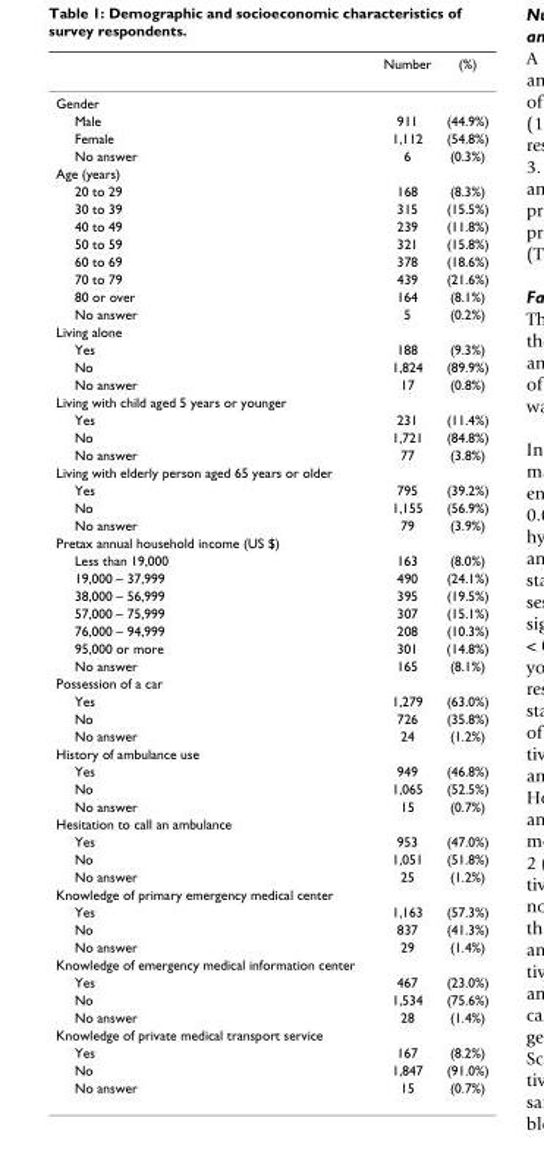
<table><thead><tr><td></td><td>Number</td><td>(%)</td></tr></thead><tbody><tr><td colspan="3">Gender</td></tr><tr><td>Male</td><td>911</td><td>(44.9%)</td></tr><tr><td>Female</td><td>1,112</td><td>(54.8%)</td></tr><tr><td>No answer</td><td>6</td><td>(0.3%)</td></tr><tr><td colspan="3">Age (years)</td></tr><tr><td>20 to 29</td><td>168</td><td>(8.3%)</td></tr><tr><td>30 to 39</td><td>315</td><td>(15.5%)</td></tr><tr><td>40 to 49</td><td>239</td><td>(11.8%)</td></tr><tr><td>50 to 59</td><td>321</td><td>(15.8%)</td></tr><tr><td>60 to 69</td><td>378</td><td>(18.6%)</td></tr><tr><td>70 to 79</td><td>439</td><td>(21.6%)</td></tr><tr><td>80 or over</td><td>164</td><td>(8.1%)</td></tr><tr><td>No answer</td><td>5</td><td>(0.2%)</td></tr><tr><td colspan="3">Living alone</td></tr><tr><td>Yes</td><td>188</td><td>(9.3%)</td></tr><tr><td>No</td><td>1,824</td><td>(89.9%)</td></tr><tr><td>No answer</td><td>17</td><td>(0.8%)</td></tr><tr><td colspan="3">Living with child aged 5 years or younger</td></tr><tr><td>Yes</td><td>231</td><td>(11.4%)</td></tr><tr><td>No</td><td>1,721</td><td>(84.8%)</td></tr><tr><td>No answer</td><td>77</td><td>(3.8%)</td></tr><tr><td colspan="3">Living with elderly person aged 65 years or older</td></tr><tr><td>Yes</td><td>795</td><td>(39.2%)</td></tr><tr><td>No</td><td>1,155</td><td>(56.9%)</td></tr><tr><td>No answer</td><td>79</td><td>(3.9%)</td></tr><tr><td colspan="3">Pretax annual household income (US $)</td></tr><tr><td>Less than 19,000</td><td>163</td><td>(8.0%)</td></tr><tr><td>19,000 – 37,999</td><td>490</td><td>(24.1%)</td></tr><tr><td>38,000 – 56,999</td><td>395</td><td>(19.5%)</td></tr><tr><td>57,000 – 75,999</td><td>307</td><td>(15.1%)</td></tr><tr><td>76,000 – 94,999</td><td>208</td><td>(10.3%)</td></tr><tr><td>95,000 or more</td><td>301</td><td>(14.8%)</td></tr><tr><td>No answer</td><td>165</td><td>(8.1%)</td></tr><tr><td colspan="3">Possession of a car</td></tr><tr><td>Yes</td><td>1,279</td><td>(63.0%)</td></tr><tr><td>No</td><td>726</td><td>(35.8%)</td></tr><tr><td>No answer</td><td>24</td><td>(1.2%)</td></tr><tr><td colspan="3">History of ambulance use</td></tr><tr><td>Yes</td><td>949</td><td>(46.8%)</td></tr><tr><td>No</td><td>1,065</td><td>(52.5%)</td></tr><tr><td>No answer</td><td>15</td><td>(0.7%)</td></tr><tr><td colspan="3">Hesitation to call an ambulance</td></tr><tr><td>Yes</td><td>953</td><td>(47.0%)</td></tr><tr><td>No</td><td>1,051</td><td>(51.8%)</td></tr><tr><td>No answer</td><td>25</td><td>(1.2%)</td></tr><tr><td colspan="3">Knowledge of primary emergency medical center</td></tr><tr><td>Yes</td><td>1,163</td><td>(57.3%)</td></tr><tr><td>No</td><td>837</td><td>(41.3%)</td></tr><tr><td>No answer</td><td>29</td><td>(1.4%)</td></tr><tr><td colspan="3">Knowledge of emergency medical information center</td></tr><tr><td>Yes</td><td>467</td><td>(23.0%)</td></tr><tr><td>No</td><td>1,534</td><td>(75.6%)</td></tr><tr><td>No answer</td><td>28</td><td>(1.4%)</td></tr><tr><td colspan="3">Knowledge of private medical transport service</td></tr><tr><td>Yes</td><td>167</td><td>(8.2%)</td></tr><tr><td>No</td><td>1,847</td><td>(91.0%)</td></tr><tr><td>No answer</td><td>15</td><td>(0.7%)</td></tr></tbody></table>